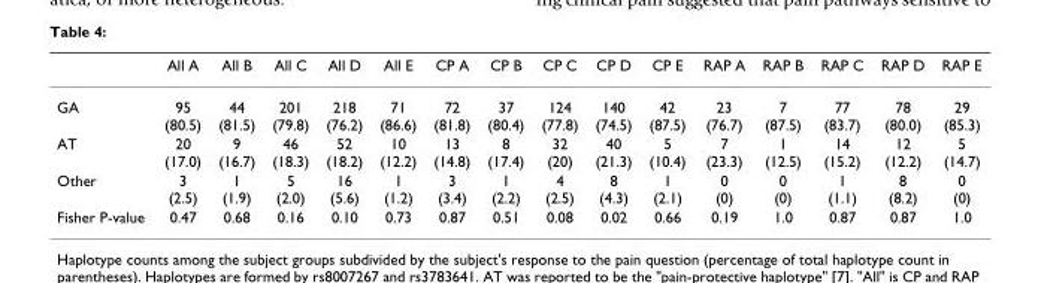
<table><thead><tr><td></td><td>All A</td><td>All B</td><td>All C</td><td>All D</td><td>All E</td><td>CP A</td><td>CP B</td><td>CP C</td><td>CP D</td><td>CP E</td><td>RAP A</td><td>RAP B</td><td>RAP C</td><td>RAP D</td><td>RAP E</td></tr></thead><tbody><tr><td>GA</td><td>95 (80.5)</td><td>44 (81.5)</td><td>201 (79.8)</td><td>218 (76.2)</td><td>71 (86.6)</td><td>72 (81.8)</td><td>37 (80.4)</td><td>124 (77.8)</td><td>140 (74.5)</td><td>42 (87.5)</td><td>23 (76.7)</td><td>7 (87.5)</td><td>77 (83.7)</td><td>78 (80.0)</td><td>29 (85.3)</td></tr><tr><td>AT</td><td>20 (17.0)</td><td>9 (16.7)</td><td>46 (18.3)</td><td>52 (18.2)</td><td>10 (12.2)</td><td>13 (14.8)</td><td>8 (17.4)</td><td>32 (20)</td><td>40 (21.3)</td><td>5 (10.4)</td><td>7 (23.3)</td><td>1 (12.5)</td><td>14 (15.2)</td><td>12 (12.2)</td><td>5 (14.7)</td></tr><tr><td>Other</td><td>3 (2.5)</td><td>1 (1.9)</td><td>5 (2.0)</td><td>16 (5.6)</td><td>1 (1.2)</td><td>3 (3.4)</td><td>1 (2.2)</td><td>4 (2.5)</td><td>8 (4.3)</td><td>1 (2.1)</td><td>0 (0)</td><td>0 (0)</td><td>1 (1.1)</td><td>8 (8.2)</td><td>0 (0)</td></tr><tr><td>Fisher P-value</td><td>0.47</td><td>0.68</td><td>0.16</td><td>0.10</td><td>0.73</td><td>0.87</td><td>0.51</td><td>0.08</td><td>0.02</td><td>0.66</td><td>0.19</td><td>1.0</td><td>0.87</td><td>0.87</td><td>1.0</td></tr></tbody></table>